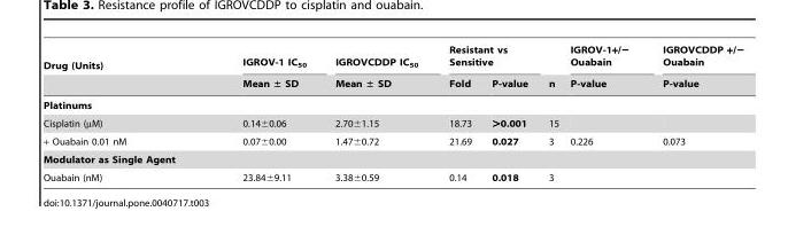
<table><thead><tr><td rowspan="2">Drug (Units)</td><td rowspan="2">IGROV-1 IC<sub>50</sub> Mean ± SD</td><td rowspan="2">IGROVCDDP IC<sub>50</sub> Mean ± SD</td><td colspan="2">Resistant vs Sensitive</td><td rowspan="2">n</td><td rowspan="2">IGROV-1+/− Ouabain P-value</td><td rowspan="2">IGROVCDDP +/− Ouabain P-value</td></tr><tr><td>Fold</td><td>P-value</td></tr></thead><tbody><tr><td colspan="8">Platinums</td></tr><tr><td>Cisplatin (µM)</td><td>0.14±0.06</td><td>2.70±1.15</td><td>18.73</td><td>&gt;0.001</td><td>15</td><td></td><td></td></tr><tr><td>+ Ouabain 0.01 nM</td><td>0.07±0.00</td><td>1.47±0.72</td><td>21.69</td><td>0.027</td><td>3</td><td>0.226</td><td>0.073</td></tr><tr><td colspan="8">Modulator as Single Agent</td></tr><tr><td>Ouabain (nM)</td><td>23.84±9.11</td><td>3.38±0.59</td><td>0.14</td><td>0.018</td><td>3</td><td></td><td></td></tr></tbody></table>